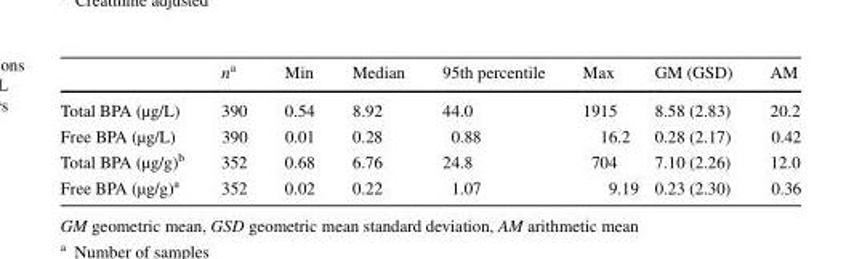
<table><thead><tr><td></td><td>n<sup>a</sup></td><td>Min</td><td>Median</td><td>95th percentile</td><td>Max</td><td>GM (GSD)</td><td>AM</td></tr></thead><tbody><tr><td>Total BPA (µg/L)</td><td>390</td><td>0.54</td><td>8.92</td><td>44.0</td><td>1915</td><td>8.58 (2.83)</td><td>20.2</td></tr><tr><td>Free BPA (µg/L)</td><td>390</td><td>0.01</td><td>0.28</td><td>0.88</td><td>16.2</td><td>0.28 (2.17)</td><td>0.42</td></tr><tr><td>Total BPA (µg/g)<sup>b</sup></td><td>352</td><td>0.68</td><td>6.76</td><td>24.8</td><td>704</td><td>7.10 (2.26)</td><td>12.0</td></tr><tr><td>Free BPA (µg/g)<sup>a</sup></td><td>352</td><td>0.02</td><td>0.22</td><td>1.07</td><td>9.19</td><td>0.23 (2.30)</td><td>0.36</td></tr></tbody></table>